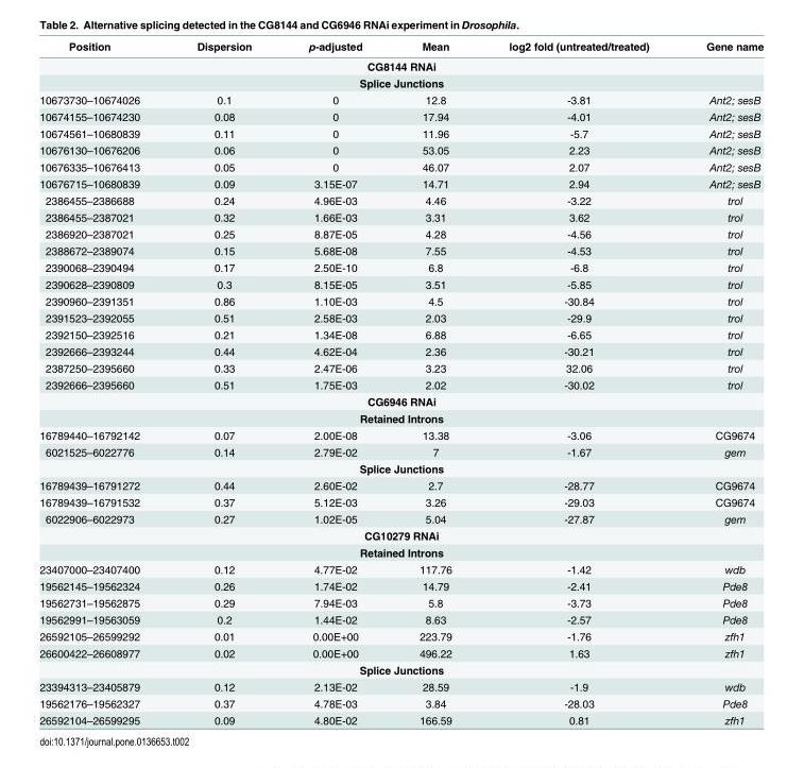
<table><thead><tr><td>Position</td><td>Dispersion</td><td>p-adjusted</td><td>Mean</td><td>log2 fold (untreated/treated)</td><td>Gene name</td></tr></thead><tbody><tr><td colspan="6">CG8144 RNAi</td></tr><tr><td colspan="6">Splice Junctions</td></tr><tr><td>10673730–10674026</td><td>0.1</td><td>0</td><td>12.8</td><td>-3.81</td><td>Ant2; sesB</td></tr><tr><td>10674155–10674230</td><td>0.08</td><td>0</td><td>17.94</td><td>-4.01</td><td>Ant2; sesB</td></tr><tr><td>10674561–10680839</td><td>0.11</td><td>0</td><td>11.96</td><td>-5.7</td><td>Ant2; sesB</td></tr><tr><td>10676130–10676206</td><td>0.06</td><td>0</td><td>53.05</td><td>2.23</td><td>Ant2; sesB</td></tr><tr><td>10676335–10676413</td><td>0.05</td><td>0</td><td>46.07</td><td>2.07</td><td>Ant2; sesB</td></tr><tr><td>10676715–10680839</td><td>0.09</td><td>3.15E-07</td><td>14.71</td><td>2.94</td><td>Ant2; sesB</td></tr><tr><td>2386455–2386688</td><td>0.24</td><td>4.96E-03</td><td>4.46</td><td>-3.22</td><td>trol</td></tr><tr><td>2386455–2387021</td><td>0.32</td><td>1.66E-03</td><td>3.31</td><td>3.62</td><td>trol</td></tr><tr><td>2386920–2387021</td><td>0.25</td><td>8.87E-05</td><td>4.28</td><td>-4.56</td><td>trol</td></tr><tr><td>2388672–2389074</td><td>0.15</td><td>5.68E-08</td><td>7.55</td><td>-4.53</td><td>trol</td></tr><tr><td>2390068–2390494</td><td>0.17</td><td>2.50E-10</td><td>6.8</td><td>-6.8</td><td>trol</td></tr><tr><td>2390628–2390809</td><td>0.3</td><td>8.15E-05</td><td>3.51</td><td>-5.85</td><td>trol</td></tr><tr><td>2390960–2391351</td><td>0.86</td><td>1.10E-03</td><td>4.5</td><td>-30.84</td><td>trol</td></tr><tr><td>2391523–2392055</td><td>0.51</td><td>2.58E-03</td><td>2.03</td><td>-29.9</td><td>trol</td></tr><tr><td>2392150–2392516</td><td>0.21</td><td>1.34E-08</td><td>6.88</td><td>-6.65</td><td>trol</td></tr><tr><td>2392666–2393244</td><td>0.44</td><td>4.62E-04</td><td>2.36</td><td>-30.21</td><td>trol</td></tr><tr><td>2387250–2395660</td><td>0.33</td><td>2.47E-06</td><td>3.23</td><td>32.06</td><td>trol</td></tr><tr><td>2392666–2395660</td><td>0.51</td><td>1.75E-03</td><td>2.02</td><td>-30.02</td><td>trol</td></tr><tr><td colspan="6">CG6946 RNAi</td></tr><tr><td colspan="6">Retained Introns</td></tr><tr><td>16789440–16792142</td><td>0.07</td><td>2.00E-08</td><td>13.38</td><td>-3.06</td><td>CG9674</td></tr><tr><td>6021525–6022776</td><td>0.14</td><td>2.79E-02</td><td>7</td><td>-1.67</td><td>gem</td></tr><tr><td colspan="6">Splice Junctions</td></tr><tr><td>16789439–16791272</td><td>0.44</td><td>2.60E-02</td><td>2.7</td><td>-28.77</td><td>CG9674</td></tr><tr><td>16789439–16791532</td><td>0.37</td><td>5.12E-03</td><td>3.26</td><td>-29.03</td><td>CG9674</td></tr><tr><td>6022906–6022973</td><td>0.27</td><td>1.02E-05</td><td>5.04</td><td>-27.87</td><td>gem</td></tr><tr><td colspan="6">CG10279 RNAi</td></tr><tr><td colspan="6">Retained Introns</td></tr><tr><td>23407000–23407400</td><td>0.12</td><td>4.77E-02</td><td>117.76</td><td>-1.42</td><td>wdb</td></tr><tr><td>19562145–19562324</td><td>0.26</td><td>1.74E-02</td><td>14.79</td><td>-2.41</td><td>Pde8</td></tr><tr><td>19562731–19562875</td><td>0.29</td><td>7.94E-03</td><td>5.8</td><td>-3.73</td><td>Pde8</td></tr><tr><td>19562991–19563059</td><td>0.2</td><td>1.44E-02</td><td>8.63</td><td>-2.57</td><td>Pde8</td></tr><tr><td>26592105–26599292</td><td>0.01</td><td>0.00E+00</td><td>223.79</td><td>-1.76</td><td>zfh1</td></tr><tr><td>26600422–26608977</td><td>0.02</td><td>0.00E+00</td><td>496.22</td><td>1.63</td><td>zfh1</td></tr><tr><td colspan="6">Splice Junctions</td></tr><tr><td>23394313–23405879</td><td>0.12</td><td>2.13E-02</td><td>28.59</td><td>-1.9</td><td>wdb</td></tr><tr><td>19562176–19562327</td><td>0.37</td><td>4.78E-03</td><td>3.84</td><td>-28.03</td><td>Pde8</td></tr><tr><td>26592104–26599295</td><td>0.09</td><td>4.80E-02</td><td>166.59</td><td>0.81</td><td>zfh1</td></tr></tbody></table>